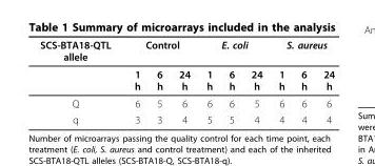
<table><thead><tr><td rowspan="2">SCS-BTA18-QTL allele</td><td colspan="3">Control</td><td colspan="3">E. coli</td><td colspan="3">S. aureus</td></tr><tr><td>1 h</td><td>6 h</td><td>24 h</td><td>1 h</td><td>6 h</td><td>24 h</td><td>1 h</td><td>6 h</td><td>24 h</td></tr></thead><tbody><tr><td>Q</td><td>6</td><td>5</td><td>6</td><td>6</td><td>6</td><td>5</td><td>6</td><td>6</td><td>6</td></tr><tr><td>q</td><td>3</td><td>3</td><td>4</td><td>5</td><td>5</td><td>4</td><td>4</td><td>4</td><td>4</td></tr></tbody></table>